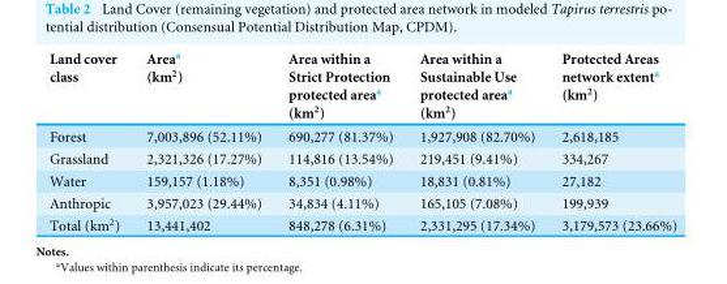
<table><thead><tr><td>Land cover class</td><td>Area<sup>a</sup> (km<sup>2</sup>)</td><td>Area within a Strict Protection protected area<sup>a</sup> (km<sup>2</sup>)</td><td>Area within a Sustainable Use protected area<sup>a</sup> (km<sup>2</sup>)</td><td>Protected Areas network extent<sup>a</sup> (km<sup>2</sup>)</td></tr></thead><tbody><tr><td>Forest</td><td>7,003,896 (52.11%)</td><td>690,277 (81.37%)</td><td>1,927,908 (82.70%)</td><td>2,618,185</td></tr><tr><td>Grassland</td><td>2,321,326 (17.27%)</td><td>114,816 (13.54%)</td><td>219,451 (9.41%)</td><td>334,267</td></tr><tr><td>Water</td><td>159,157 (1.18%)</td><td>8,351 (0.98%)</td><td>18,831 (0.81%)</td><td>27,182</td></tr><tr><td>Anthropic</td><td>3,957,023 (29.44%)</td><td>34,834 (4.11%)</td><td>165,105 (7.08%)</td><td>199,939</td></tr><tr><td>Total (km<sup>2</sup>)</td><td>13,441,402</td><td>848,278 (6.31%)</td><td>2,331,295 (17.34%)</td><td>3,179,573 (23.66%)</td></tr></tbody></table>